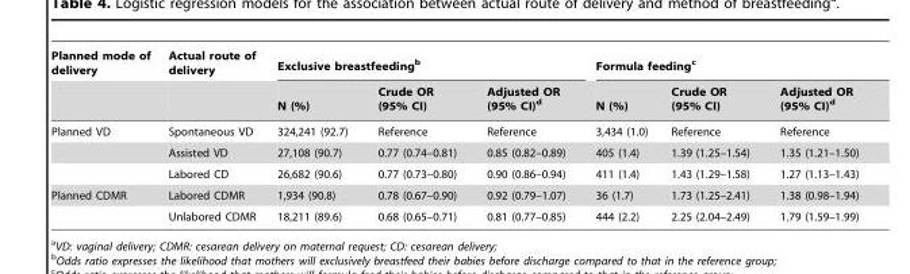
<table><thead><tr><td rowspan="2">Planned mode of delivery</td><td rowspan="2">Actual route of delivery</td><td colspan="3">Exclusive breastfeeding<sup>b</sup></td><td colspan="3">Formula feeding<sup>c</sup></td></tr><tr><td>N (%)</td><td>Crude OR (95% CI)</td><td>Adjusted OR (95% CI)<sup>d</sup></td><td>N (%)</td><td>Crude OR (95% CI)</td><td>Adjusted OR (95% CI)<sup>d</sup></td></tr></thead><tbody><tr><td rowspan="3">Planned VD</td><td>Spontaneous VD</td><td>324,241 (92.7)</td><td>Reference</td><td>Reference</td><td>3,434 (1.0)</td><td>Reference</td><td>Reference</td></tr><tr><td>Assisted VD</td><td>27,108 (90.7)</td><td>0.77 (0.74–0.81)</td><td>0.85 (0.82–0.89)</td><td>405 (1.4)</td><td>1.39 (1.25–1.54)</td><td>1.35 (1.21–1.50)</td></tr><tr><td>Labored CD</td><td>26,682 (90.6)</td><td>0.77 (0.73–0.80)</td><td>0.90 (0.86–0.94)</td><td>411 (1.4)</td><td>1.43 (1.29–1.58)</td><td>1.27 (1.13–1.43)</td></tr><tr><td rowspan="2">Planned CDMR</td><td>Labored CDMR</td><td>1,934 (90.8)</td><td>0.78 (0.67–0.90)</td><td>0.92 (0.79–1.07)</td><td>36 (1.7)</td><td>1.73 (1.25–2.41)</td><td>1.38 (0.98–1.94)</td></tr><tr><td>Unlabored CDMR</td><td>18,211 (89.6)</td><td>0.68 (0.65–0.71)</td><td>0.81 (0.77–0.85)</td><td>444 (2.2)</td><td>2.25 (2.04–2.49)</td><td>1.79 (1.59–1.99)</td></tr></tbody></table>